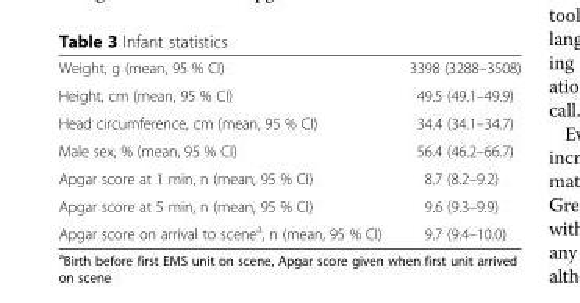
<table><tbody><tr><td>Weight, g (mean, 95 % CI)</td><td>3398 (3288–3508)</td></tr><tr><td>Height, cm (mean, 95 % CI)</td><td>49.5 (49.1–49.9)</td></tr><tr><td>Head circumference, cm (mean, 95 % CI)</td><td>34.4 (34.1–34.7)</td></tr><tr><td>Male sex, % (mean, 95 % CI)</td><td>56.4 (46.2–66.7)</td></tr><tr><td>Apgar score at 1 min, n (mean, 95 % CI)</td><td>8.7 (8.2–9.2)</td></tr><tr><td>Apgar score at 5 min, n (mean, 95 % CI)</td><td>9.6 (9.3–9.9)</td></tr><tr><td>Apgar score on arrival to scene<sup>a</sup>, n (mean, 95 % CI)</td><td>9.7 (9.4–10.0)</td></tr></tbody></table>